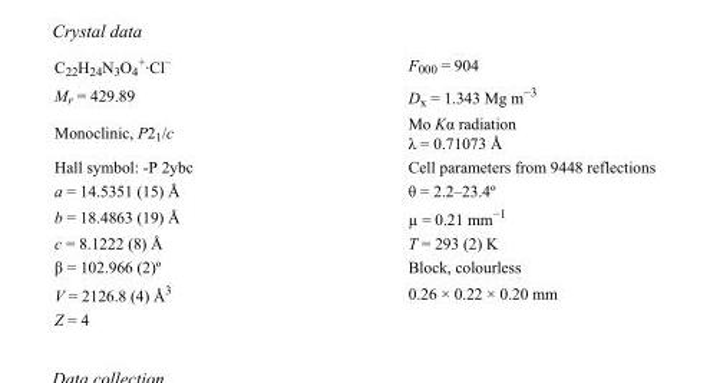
<table><tbody><tr><td>C<sub>22</sub>H<sub>24</sub>N<sub>3</sub>O<sub>4</sub> <sup>+</sup>·Cl<sup>–</sup></td><td>F<sub>000</sub> = 904</td></tr><tr><td>M<sub>r</sub> = 429.89</td><td>D<sub>x</sub> = 1.343 Mg m<sup>−3</sup></td></tr><tr><td>Monoclinic, P2<sub>1</sub>/c</td><td>Mo Kα radiation λ = 0.71073 Å</td></tr><tr><td>Hall symbol: -P 2ybc</td><td>Cell parameters from 9448 reflections</td></tr><tr><td>a = 14.5351 (15) Å</td><td>θ = 2.2–23.4º</td></tr><tr><td>b = 18.4863 (19) Å</td><td>µ = 0.21 mm<sup>−1</sup></td></tr><tr><td>c = 8.1222 (8) Å</td><td>T = 293 (2) K</td></tr><tr><td>β = 102.966 (2)º</td><td>Block, colourless</td></tr><tr><td>V = 2126.8 (4) Å<sup>3</sup></td><td>0.26 × 0.22 × 0.20 mm</td></tr><tr><td>Z = 4</td><td></td></tr></tbody></table>